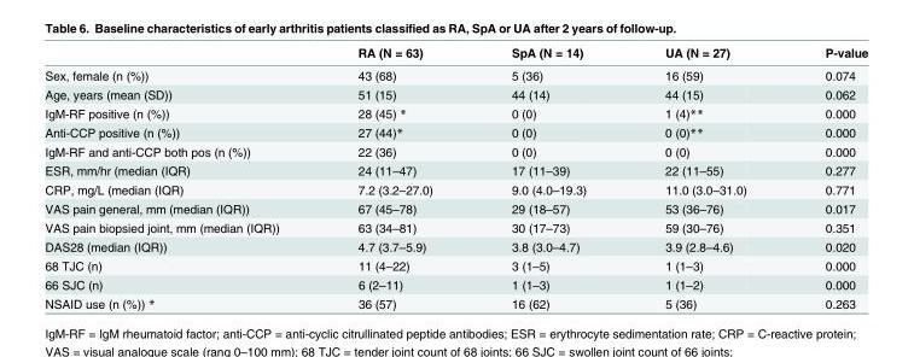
<table><thead><tr><td></td><td>RA (N = 63)</td><td>SpA (N = 14)</td><td>UA (N = 27)</td><td>P-value</td></tr></thead><tbody><tr><td>Sex, female (n (%))</td><td>43 (68)</td><td>5 (36)</td><td>16 (59)</td><td>0.074</td></tr><tr><td>Age, years (mean (SD))</td><td>51 (15)</td><td>44 (14)</td><td>44 (15)</td><td>0.062</td></tr><tr><td>IgM-RF positive (n (%))</td><td>28 (45) *</td><td>0 (0)</td><td>1 (4)**</td><td>0.000</td></tr><tr><td>Anti-CCP positive (n (%))</td><td>27 (44)*</td><td>0 (0)</td><td>0 (0)**</td><td>0.000</td></tr><tr><td>IgM-RF and anti-CCP both pos (n (%))</td><td>22 (36)</td><td>0 (0)</td><td>0 (0)</td><td>0.000</td></tr><tr><td>ESR, mm/hr (median (IQR)</td><td>24 (11–47)</td><td>17 (11–39)</td><td>22 (11–55)</td><td>0.277</td></tr><tr><td>CRP, mg/L (median (IQR)</td><td>7.2 (3.2–27.0)</td><td>9.0 (4.0–19.3)</td><td>11.0 (3.0–31.0)</td><td>0.771</td></tr><tr><td>VAS pain general, mm (median (IQR))</td><td>67 (45–78)</td><td>29 (18–57)</td><td>53 (36–76)</td><td>0.017</td></tr><tr><td>VAS pain biopsied joint, mm (median (IQR))</td><td>63 (34–81)</td><td>30 (17–73)</td><td>59 (30–76)</td><td>0.351</td></tr><tr><td>DAS28 (median (IQR))</td><td>4.7 (3.7–5.9)</td><td>3.8 (3.0–4.7)</td><td>3.9 (2.8–4.6)</td><td>0.020</td></tr><tr><td>68 TJC (n)</td><td>11 (4–22)</td><td>3 (1–5)</td><td>1 (1–3)</td><td>0.000</td></tr><tr><td>66 SJC (n)</td><td>6 (2–11)</td><td>1 (1–3)</td><td>1 (1–2)</td><td>0.000</td></tr><tr><td>NSAID use (n (%)) *</td><td>36 (57)</td><td>16 (62)</td><td>5 (36)</td><td>0.263</td></tr></tbody></table>